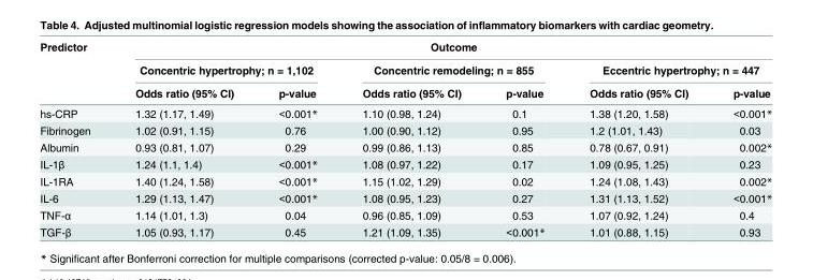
<table><thead><tr><td rowspan="3">Predictor</td><td colspan="6">Outcome</td></tr><tr><td colspan="2">Concentric hypertrophy; n = 1,102</td><td colspan="2">Concentric remodeling; n = 855</td><td colspan="2">Eccentric hypertrophy; n = 447</td></tr><tr><td>Odds ratio (95% CI)</td><td>p-value</td><td>Odds ratio (95% CI)</td><td>p-value</td><td>Odds ratio (95% CI)</td><td>p-value</td></tr></thead><tbody><tr><td>hs-CRP</td><td>1.32 (1.17, 1.49)</td><td>&lt;0.001*</td><td>1.10 (0.98, 1.24)</td><td>0.1</td><td>1.38 (1.20, 1.58)</td><td>&lt;0.001*</td></tr><tr><td>Fibrinogen</td><td>1.02 (0.91, 1.15)</td><td>0.76</td><td>1.00 (0.90, 1.12)</td><td>0.95</td><td>1.2 (1.01, 1.43)</td><td>0.03</td></tr><tr><td>Albumin</td><td>0.93 (0.81, 1.07)</td><td>0.29</td><td>0.99 (0.86, 1.13)</td><td>0.85</td><td>0.78 (0.67, 0.91)</td><td>0.002*</td></tr><tr><td>IL-1β</td><td>1.24 (1.1, 1.4)</td><td>&lt;0.001*</td><td>1.08 (0.97, 1.22)</td><td>0.17</td><td>1.09 (0.95, 1.25)</td><td>0.23</td></tr><tr><td>IL-1RA</td><td>1.40 (1.24, 1.58)</td><td>&lt;0.001*</td><td>1.15 (1.02, 1.29)</td><td>0.02</td><td>1.24 (1.08, 1.43)</td><td>0.002*</td></tr><tr><td>IL-6</td><td>1.29 (1.13, 1.47)</td><td>&lt;0.001*</td><td>1.08 (0.95, 1.23)</td><td>0.27</td><td>1.31 (1.13, 1.52)</td><td>&lt;0.001*</td></tr><tr><td>TNF-α</td><td>1.14 (1.01, 1.3)</td><td>0.04</td><td>0.96 (0.85, 1.09)</td><td>0.53</td><td>1.07 (0.92, 1.24)</td><td>0.4</td></tr><tr><td>TGF-β</td><td>1.05 (0.93, 1.17)</td><td>0.45</td><td>1.21 (1.09, 1.35)</td><td>&lt;0.001*</td><td>1.01 (0.88, 1.15)</td><td>0.93</td></tr></tbody></table>